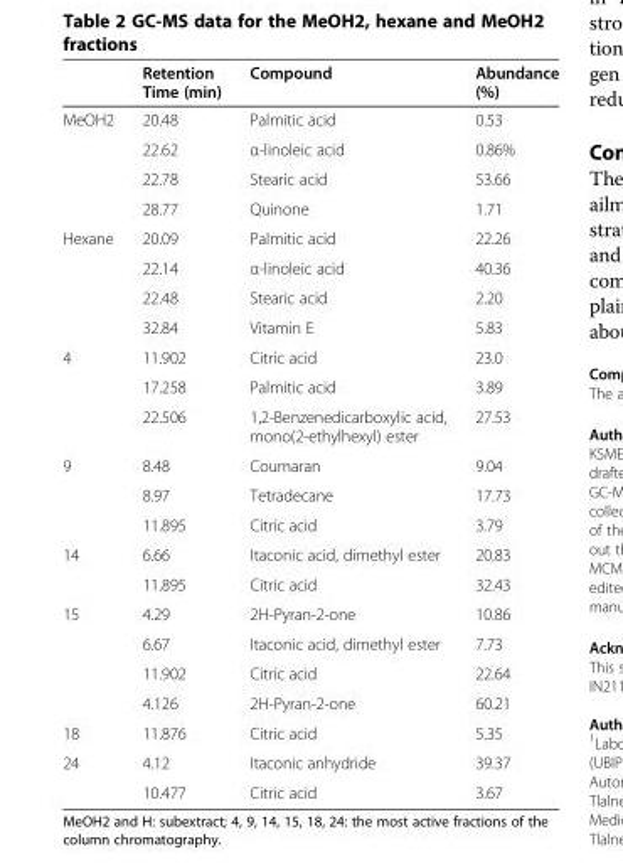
<table><thead><tr><td></td><td>Retention Time (min)</td><td>Compound</td><td>Abundance (%)</td></tr></thead><tbody><tr><td rowspan="4">MeOH2</td><td>20.48</td><td>Palmitic acid</td><td>0.53</td></tr><tr><td>22.62</td><td>α-linoleic acid</td><td>0.86%</td></tr><tr><td>22.78</td><td>Stearic acid</td><td>53.66</td></tr><tr><td>28.77</td><td>Quinone</td><td>1.71</td></tr><tr><td rowspan="4">Hexane</td><td>20.09</td><td>Palmitic acid</td><td>22.26</td></tr><tr><td>22.14</td><td>α-linoleic acid</td><td>40.36</td></tr><tr><td>22.48</td><td>Stearic acid</td><td>2.20</td></tr><tr><td>32.84</td><td>Vitamin E</td><td>5.83</td></tr><tr><td rowspan="3">4</td><td>11.902</td><td>Citric acid</td><td>23.0</td></tr><tr><td>17.258</td><td>Palmitic acid</td><td>3.89</td></tr><tr><td>22.506</td><td>1,2-Benzenedicarboxylic acid, mono(2-ethylhexyl) ester</td><td>27.53</td></tr><tr><td rowspan="3">9</td><td>8.48</td><td>Coumaran</td><td>9.04</td></tr><tr><td>8.97</td><td>Tetradecane</td><td>17.73</td></tr><tr><td>11.895</td><td>Citric acid</td><td>3.79</td></tr><tr><td rowspan="2">14</td><td>6.66</td><td>Itaconic acid, dimethyl ester</td><td>20.83</td></tr><tr><td>11.895</td><td>Citric acid</td><td>32.43</td></tr><tr><td rowspan="4">15</td><td>4.29</td><td>2H-Pyran-2-one</td><td>10.86</td></tr><tr><td>6.67</td><td>Itaconic acid, dimethyl ester</td><td>7.73</td></tr><tr><td>11.902</td><td>Citric acid</td><td>22.64</td></tr><tr><td>4.126</td><td>2H-Pyran-2-one</td><td>60.21</td></tr><tr><td>18</td><td>11.876</td><td>Citric acid</td><td>5.35</td></tr><tr><td rowspan="2">24</td><td>4.12</td><td>Itaconic anhydride</td><td>39.37</td></tr><tr><td>10.477</td><td>Citric acid</td><td>3.67</td></tr></tbody></table>